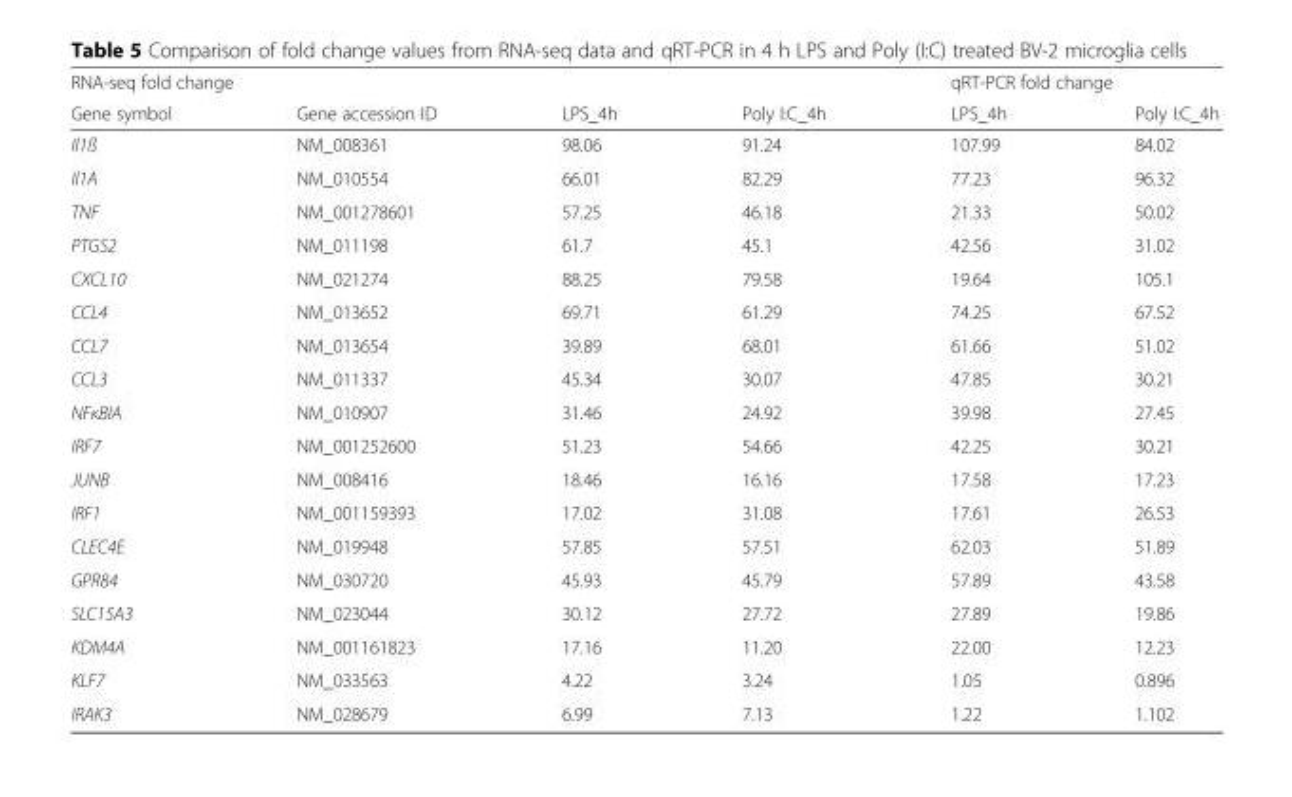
<table><thead><tr><td colspan="4">RNA-seq fold change</td><td colspan="2">qRT-PCR fold change</td></tr><tr><td>Gene symbol</td><td>Gene accession ID</td><td>LPS_4h</td><td>Poly I:C_4h</td><td>LPS_4h</td><td>Poly I:C_4h</td></tr></thead><tbody><tr><td>Il1ß</td><td>NM_008361</td><td>98.06</td><td>91.24</td><td>107.99</td><td>84.02</td></tr><tr><td>Il1A</td><td>NM_010554</td><td>66.01</td><td>82.29</td><td>77.23</td><td>96.32</td></tr><tr><td>TNF</td><td>NM_001278601</td><td>57.25</td><td>46.18</td><td>21.33</td><td>50.02</td></tr><tr><td>PTGS2</td><td>NM_011198</td><td>61.7</td><td>45.1</td><td>42.56</td><td>31.02</td></tr><tr><td>CXCL10</td><td>NM_021274</td><td>88.25</td><td>79.58</td><td>19.64</td><td>105.1</td></tr><tr><td>CCL4</td><td>NM_013652</td><td>69.71</td><td>61.29</td><td>74.25</td><td>67.52</td></tr><tr><td>CCL7</td><td>NM_013654</td><td>39.89</td><td>68.01</td><td>61.66</td><td>51.02</td></tr><tr><td>CCL3</td><td>NM_011337</td><td>45.34</td><td>30.07</td><td>47.85</td><td>30.21</td></tr><tr><td>NFκBIA</td><td>NM_010907</td><td>31.46</td><td>24.92</td><td>39.98</td><td>27.45</td></tr><tr><td>IRF7</td><td>NM_001252600</td><td>51.23</td><td>54.66</td><td>42.25</td><td>30.21</td></tr><tr><td>JUNB</td><td>NM_008416</td><td>18.46</td><td>16.16</td><td>17.58</td><td>17.23</td></tr><tr><td>IRF1</td><td>NM_001159393</td><td>17.02</td><td>31.08</td><td>17.61</td><td>26.53</td></tr><tr><td>CLEC4E</td><td>NM_019948</td><td>57.85</td><td>57.51</td><td>62.03</td><td>51.89</td></tr><tr><td>GPR84</td><td>NM_030720</td><td>45.93</td><td>45.79</td><td>57.89</td><td>43.58</td></tr><tr><td>SLC15A3</td><td>NM_023044</td><td>30.12</td><td>27.72</td><td>27.89</td><td>19.86</td></tr><tr><td>KDM4A</td><td>NM_001161823</td><td>17.16</td><td>11.20</td><td>22.00</td><td>12.23</td></tr><tr><td>KLF7</td><td>NM_033563</td><td>4.22</td><td>3.24</td><td>1.05</td><td>0.896</td></tr><tr><td>IRAK3</td><td>NM_028679</td><td>6.99</td><td>7.13</td><td>1.22</td><td>1.102</td></tr></tbody></table>